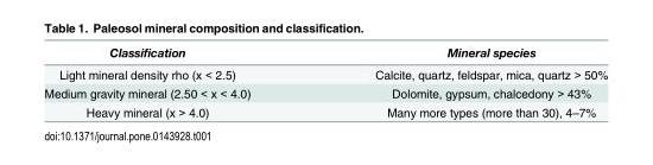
<table><thead><tr><td>Classification</td><td>Mineral species</td></tr></thead><tbody><tr><td>Light mineral density rho (x &lt; 2.5)</td><td>Calcite, quartz, feldspar, mica, quartz &gt; 50%</td></tr><tr><td>Medium gravity mineral (2.50 &lt; x &lt; 4.0)</td><td>Dolomite, gypsum, chalcedony &gt; 43%</td></tr><tr><td>Heavy mineral (x &gt; 4.0)</td><td>Many more types (more than 30), 4–7%</td></tr></tbody></table>